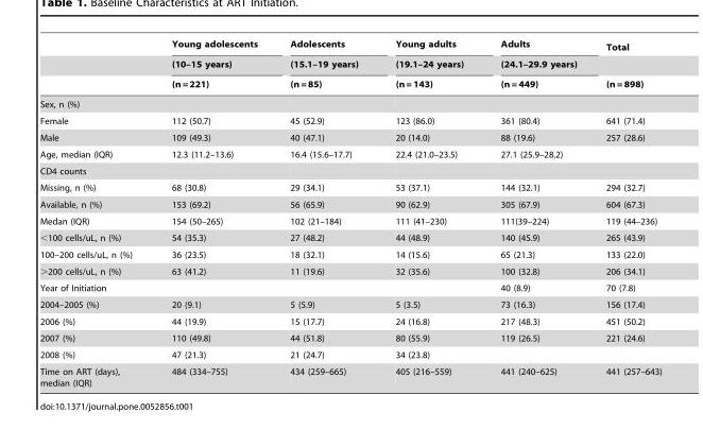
<table><thead><tr><td rowspan="3"></td><td rowspan="3">Young adolescents (10–15 years) (n = 221)</td><td rowspan="3">Adolescents (15.1–19 years) (n = 85)</td><td rowspan="3">Young adults (19.1–24 years) (n = 143)</td><td rowspan="3">Adults (24.1–29.9 years) (n = 449)</td><td rowspan="3">Total (n = 898)</td></tr><tr></tr><tr></tr></thead><tbody><tr><td colspan="6">Sex, n (%)</td></tr><tr><td>Female</td><td>112 (50.7)</td><td>45 (52.9)</td><td>123 (86.0)</td><td>361 (80.4)</td><td>641 (71.4)</td></tr><tr><td>Male</td><td>109 (49.3)</td><td>40 (47.1)</td><td>20 (14.0)</td><td>88 (19.6)</td><td>257 (28.6)</td></tr><tr><td>Age, median (IQR)</td><td>12.3 (11.2–13.6)</td><td>16.4 (15.6–17.7)</td><td>22.4 (21.0–23.5)</td><td>27.1 (25.9–28.2)</td><td></td></tr><tr><td colspan="6">CD4 counts</td></tr><tr><td>Missing, n (%)</td><td>68 (30.8)</td><td>29 (34.1)</td><td>53 (37.1)</td><td>144 (32.1)</td><td>294 (32.7)</td></tr><tr><td>Available, n (%)</td><td>153 (69.2)</td><td>56 (65.9)</td><td>90 (62.9)</td><td>305 (67.9)</td><td>604 (67.3)</td></tr><tr><td>Medan (IQR)</td><td>154 (50–265)</td><td>102 (21–184)</td><td>111 (41–230)</td><td>111(39–224)</td><td>119 (44–236)</td></tr><tr><td>&lt;100 cells/uL, n (%)</td><td>54 (35.3)</td><td>27 (48.2)</td><td>44 (48.9)</td><td>140 (45.9)</td><td>265 (43.9)</td></tr><tr><td>100–200 cells/uL, n (%)</td><td>36 (23.5)</td><td>18 (32.1)</td><td>14 (15.6)</td><td>65 (21.3)</td><td>133 (22.0)</td></tr><tr><td>&gt;200 cells/uL, n (%)</td><td>63 (41.2)</td><td>11 (19.6)</td><td>32 (35.6)</td><td>100 (32.8)</td><td>206 (34.1)</td></tr><tr><td>Year of Initiation</td><td></td><td></td><td></td><td>40 (8.9)</td><td>70 (7.8)</td></tr><tr><td>2004–2005 (%)</td><td>20 (9.1)</td><td>5 (5.9)</td><td>5 (3.5)</td><td>73 (16.3)</td><td>156 (17.4)</td></tr><tr><td>2006 (%)</td><td>44 (19.9)</td><td>15 (17.7)</td><td>24 (16.8)</td><td>217 (48.3)</td><td>451 (50.2)</td></tr><tr><td>2007 (%)</td><td>110 (49.8)</td><td>44 (51.8)</td><td>80 (55.9)</td><td>119 (26.5)</td><td>221 (24.6)</td></tr><tr><td>2008 (%)</td><td>47 (21.3)</td><td>21 (24.7)</td><td>34 (23.8)</td><td></td><td></td></tr><tr><td>Time on ART (days), median (IQR)</td><td>484 (334–755)</td><td>434 (259–665)</td><td>405 (216–559)</td><td>441 (240–625)</td><td>441 (257–643)</td></tr></tbody></table>